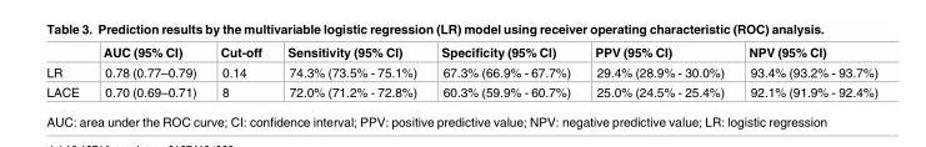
<table><thead><tr><td></td><td>AUC (95% CI)</td><td>Cut-off</td><td>Sensitivity (95% CI)</td><td>Specificity (95% CI)</td><td>PPV (95% CI)</td><td>NPV (95% CI)</td></tr></thead><tbody><tr><td>LR</td><td>0.78 (0.77–0.79)</td><td>0.14</td><td>74.3% (73.5% - 75.1%)</td><td>67.3% (66.9% - 67.7%)</td><td>29.4% (28.9% - 30.0%)</td><td>93.4% (93.2% - 93.7%)</td></tr><tr><td>LACE</td><td>0.70 (0.69–0.71)</td><td>8</td><td>72.0% (71.2% - 72.8%)</td><td>60.3% (59.9% - 60.7%)</td><td>25.0% (24.5% - 25.4%)</td><td>92.1% (91.9% - 92.4%)</td></tr></tbody></table>